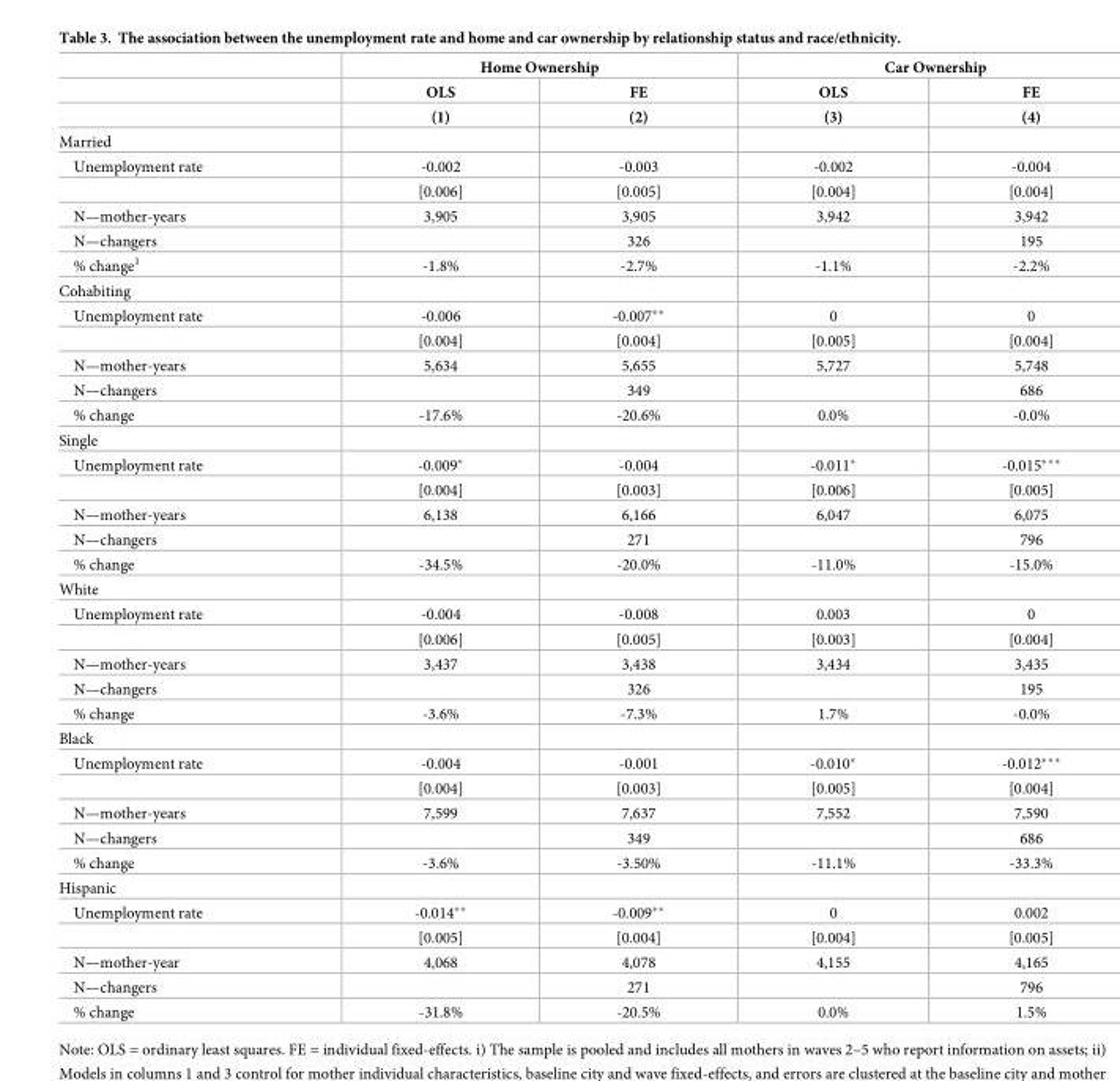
<table><thead><tr><td rowspan="3"></td><td colspan="2">Home Ownership</td><td colspan="2">Car Ownership</td></tr><tr><td rowspan="2">OLS (1)</td><td rowspan="2">FE (2)</td><td rowspan="2">OLS (3)</td><td rowspan="2">FE (4)</td></tr><tr></tr></thead><tbody><tr><td colspan="5">Married</td></tr><tr><td rowspan="2">Unemployment rate</td><td>-0.002</td><td>-0.003</td><td>-0.002</td><td>-0.004</td></tr><tr><td>[0.006]</td><td>[0.005]</td><td>[0.004]</td><td>[0.004]</td></tr><tr><td>N—mother-years</td><td>3,905</td><td>3,905</td><td>3,942</td><td>3,942</td></tr><tr><td>N—changers</td><td></td><td>326</td><td></td><td>195</td></tr><tr><td>% change<sup>1</sup></td><td>-1.8%</td><td>-2.7%</td><td>-1.1%</td><td>-2.2%</td></tr><tr><td colspan="5">Cohabiting</td></tr><tr><td rowspan="2">Unemployment rate</td><td>-0.006</td><td>-0.007**</td><td>0</td><td>0</td></tr><tr><td>[0.004]</td><td>[0.004]</td><td>[0.005]</td><td>[0.004]</td></tr><tr><td>N—mother-years</td><td>5,634</td><td>5,655</td><td>5,727</td><td>5,748</td></tr><tr><td>N—changers</td><td></td><td>349</td><td></td><td>686</td></tr><tr><td>% change</td><td>-17.6%</td><td>-20.6%</td><td>0.0%</td><td>-0.0%</td></tr><tr><td colspan="5">Single</td></tr><tr><td rowspan="2">Unemployment rate</td><td>-0.009*</td><td>-0.004</td><td>-0.011*</td><td>-0.015***</td></tr><tr><td>[0.004]</td><td>[0.003]</td><td>[0.006]</td><td>[0.005]</td></tr><tr><td>N—mother-years</td><td>6,138</td><td>6,166</td><td>6,047</td><td>6,075</td></tr><tr><td>N—changers</td><td></td><td>271</td><td></td><td>796</td></tr><tr><td>% change</td><td>-34.5%</td><td>-20.0%</td><td>-11.0%</td><td>-15.0%</td></tr><tr><td colspan="5">White</td></tr><tr><td rowspan="2">Unemployment rate</td><td>-0.004</td><td>-0.008</td><td>0.003</td><td>0</td></tr><tr><td>[0.006]</td><td>[0.005]</td><td>[0.003]</td><td>[0.004]</td></tr><tr><td>N—mother-years</td><td>3,437</td><td>3,438</td><td>3,434</td><td>3,435</td></tr><tr><td>N—changers</td><td></td><td>326</td><td></td><td>195</td></tr><tr><td>% change</td><td>-3.6%</td><td>-7.3%</td><td>1.7%</td><td>-0.0%</td></tr><tr><td colspan="5">Black</td></tr><tr><td rowspan="2">Unemployment rate</td><td>-0.004</td><td>-0.001</td><td>-0.010*</td><td>-0.012***</td></tr><tr><td>[0.004]</td><td>[0.003]</td><td>[0.005]</td><td>[0.004]</td></tr><tr><td>N—mother-years</td><td>7,599</td><td>7,637</td><td>7,552</td><td>7,590</td></tr><tr><td>N—changers</td><td></td><td>349</td><td></td><td>686</td></tr><tr><td>% change</td><td>-3.6%</td><td>-3.50%</td><td>-11.1%</td><td>-33.3%</td></tr><tr><td colspan="5">Hispanic</td></tr><tr><td rowspan="2">Unemployment rate</td><td>-0.014**</td><td>-0.009**</td><td>0</td><td>0.002</td></tr><tr><td>[0.005]</td><td>[0.004]</td><td>[0.004]</td><td>[0.005]</td></tr><tr><td>N—mother-year</td><td>4,068</td><td>4,078</td><td>4,155</td><td>4,165</td></tr><tr><td>N—changers</td><td></td><td>271</td><td></td><td>796</td></tr><tr><td>% change</td><td>-31.8%</td><td>-20.5%</td><td>0.0%</td><td>1.5%</td></tr></tbody></table>